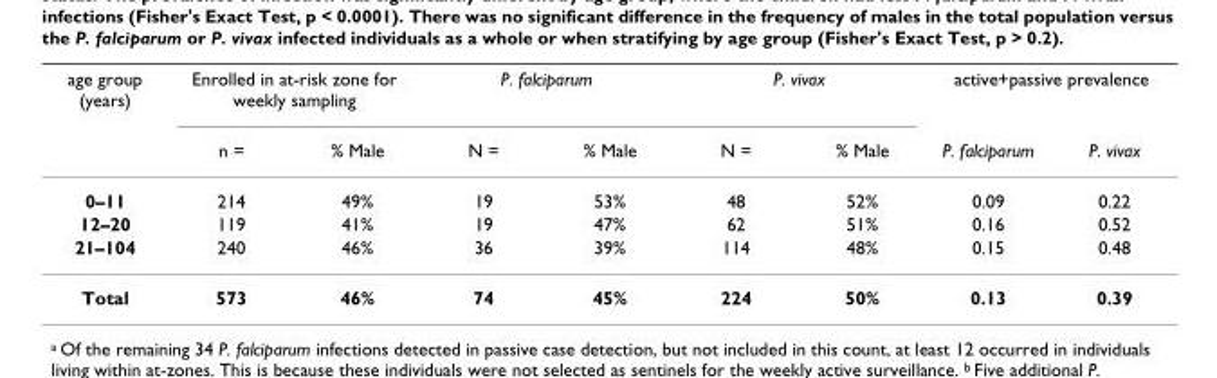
<table><thead><tr><td rowspan="2">age group (years)</td><td colspan="2">Enrolled in at-risk zone for weekly sampling</td><td colspan="2">P. falciparum</td><td colspan="2">P. vivax</td><td colspan="2">active+passive prevalence</td></tr><tr><td>n =</td><td>% Male</td><td>N =</td><td>% Male</td><td>N =</td><td>% Male</td><td>P. falciparum</td><td>P. vivax</td></tr></thead><tbody><tr><td>0–11</td><td>214</td><td>49%</td><td>19</td><td>53%</td><td>48</td><td>52%</td><td>0.09</td><td>0.22</td></tr><tr><td>12–20</td><td>119</td><td>41%</td><td>19</td><td>47%</td><td>62</td><td>51%</td><td>0.16</td><td>0.52</td></tr><tr><td>21–104</td><td>240</td><td>46%</td><td>36</td><td>39%</td><td>114</td><td>48%</td><td>0.15</td><td>0.48</td></tr><tr><td>Total</td><td>573</td><td>46%</td><td>74</td><td>45%</td><td>224</td><td>50%</td><td>0.13</td><td>0.39</td></tr></tbody></table>